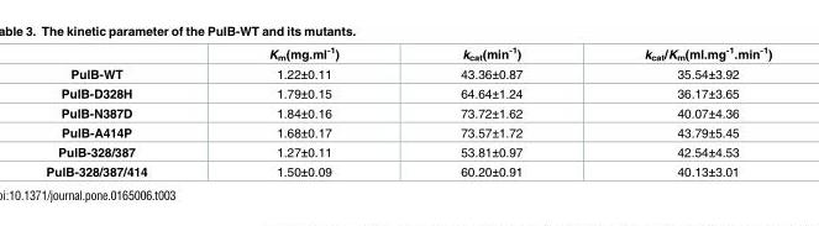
<table><thead><tr><td></td><td>K<sub>m</sub>(mg.ml<sup>-1</sup>)</td><td>k<sub>cat</sub>(min<sup>-1</sup>)</td><td>k<sub>cat</sub>/K<sub>m</sub>(ml.mg<sup>-1</sup>.min<sup>-1</sup>)</td></tr></thead><tbody><tr><td>PulB-WT</td><td>1.22±0.11</td><td>43.36±0.87</td><td>35.54±3.92</td></tr><tr><td>PulB-D328H</td><td>1.79±0.15</td><td>64.64±1.24</td><td>36.17±3.65</td></tr><tr><td>PulB-N387D</td><td>1.84±0.16</td><td>73.72±1.62</td><td>40.07±4.36</td></tr><tr><td>PulB-A414P</td><td>1.68±0.17</td><td>73.57±1.72</td><td>43.79±5.45</td></tr><tr><td>PulB-328/387</td><td>1.27±0.11</td><td>53.81±0.97</td><td>42.54±4.53</td></tr><tr><td>PulB-328/387/414</td><td>1.50±0.09</td><td>60.20±0.91</td><td>40.13±3.01</td></tr></tbody></table>